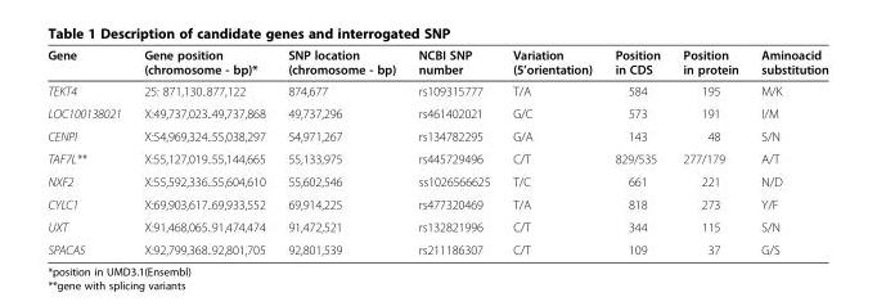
<table><thead><tr><td>Gene</td><td>Gene position (chromosome - bp)*</td><td>SNP location (chromosome - bp)</td><td>NCBI SNP number</td><td>Variation (5’orientation)</td><td>Position in CDS</td><td>Position in protein</td><td>Aminoacid substitution</td></tr></thead><tbody><tr><td>TEKT4</td><td>25: 871,130..877,122</td><td>874,677</td><td>rs109315777</td><td>T/A</td><td>584</td><td>195</td><td>M/K</td></tr><tr><td>LOC100138021</td><td>X:49,737,023..49,737,868</td><td>49,737,296</td><td>rs461402021</td><td>G/C</td><td>573</td><td>191</td><td>I/M</td></tr><tr><td>CENPI</td><td>X:54,969,324..55,038,297</td><td>54,971,267</td><td>rs134782295</td><td>G/A</td><td>143</td><td>48</td><td>S/N</td></tr><tr><td>TAF7L**</td><td>X:55,127,019..55,144,665</td><td>55,133,975</td><td>rs445729496</td><td>C/T</td><td>829/535</td><td>277/179</td><td>A/T</td></tr><tr><td>NXF2</td><td>X:55,592,336..55,604,610</td><td>55,602,546</td><td>ss1026566625</td><td>T/C</td><td>661</td><td>221</td><td>N/D</td></tr><tr><td>CYLC1</td><td>X:69,903,617..69,933,552</td><td>69,914,225</td><td>rs477320469</td><td>T/A</td><td>818</td><td>273</td><td>Y/F</td></tr><tr><td>UXT</td><td>X:91,468,065..91,474,474</td><td>91,472,521</td><td>rs132821996</td><td>C/T</td><td>344</td><td>115</td><td>S/N</td></tr><tr><td>SPACA5</td><td>X:92,799,368..92,801,705</td><td>92,801,539</td><td>rs211186307</td><td>C/T</td><td>109</td><td>37</td><td>G/S</td></tr></tbody></table>